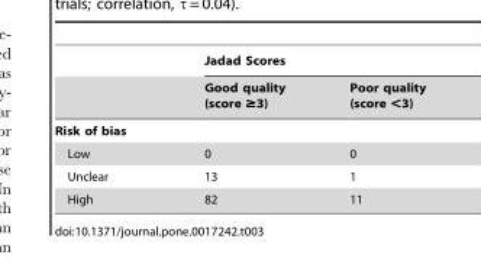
<table><thead><tr><td rowspan="2"></td><td colspan="2">Jadad Scores</td></tr><tr><td>Good quality (score ≥3)</td><td>Poor quality (score &lt;3)</td></tr></thead><tbody><tr><td colspan="3">Risk of bias</td></tr><tr><td>Low</td><td>0</td><td>0</td></tr><tr><td>Unclear</td><td>13</td><td>1</td></tr><tr><td>High</td><td>82</td><td>11</td></tr></tbody></table>